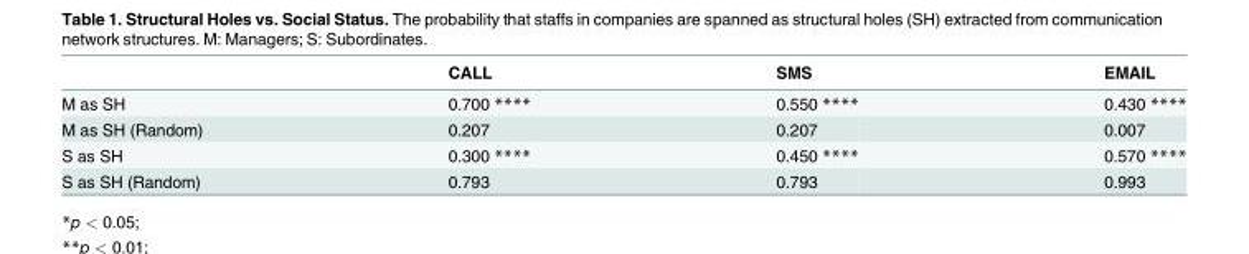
<table><thead><tr><td></td><td>CALL</td><td>SMS</td><td>EMAIL</td></tr></thead><tbody><tr><td>M as SH</td><td>0.700 ****</td><td>0.550 ****</td><td>0.430 ****</td></tr><tr><td>M as SH (Random)</td><td>0.207</td><td>0.207</td><td>0.007</td></tr><tr><td>S as SH</td><td>0.300 ****</td><td>0.450 ****</td><td>0.570 ****</td></tr><tr><td>S as SH (Random)</td><td>0.793</td><td>0.793</td><td>0.993</td></tr></tbody></table>